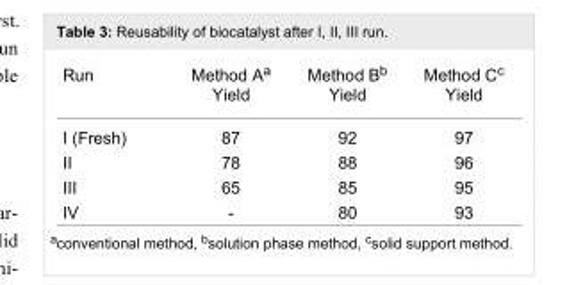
<table><tbody><tr><td>Run</td><td>Method A<sup>a</sup> Yield</td><td>Method B<sup>b</sup> Yield</td><td>Method C<sup>c</sup> Yield</td></tr><tr><td>I (Fresh)</td><td>87</td><td>92</td><td>97</td></tr><tr><td>II</td><td>78</td><td>88</td><td>96</td></tr><tr><td>III</td><td>65</td><td>85</td><td>95</td></tr><tr><td>IV</td><td>-</td><td>80</td><td>93</td></tr></tbody></table>